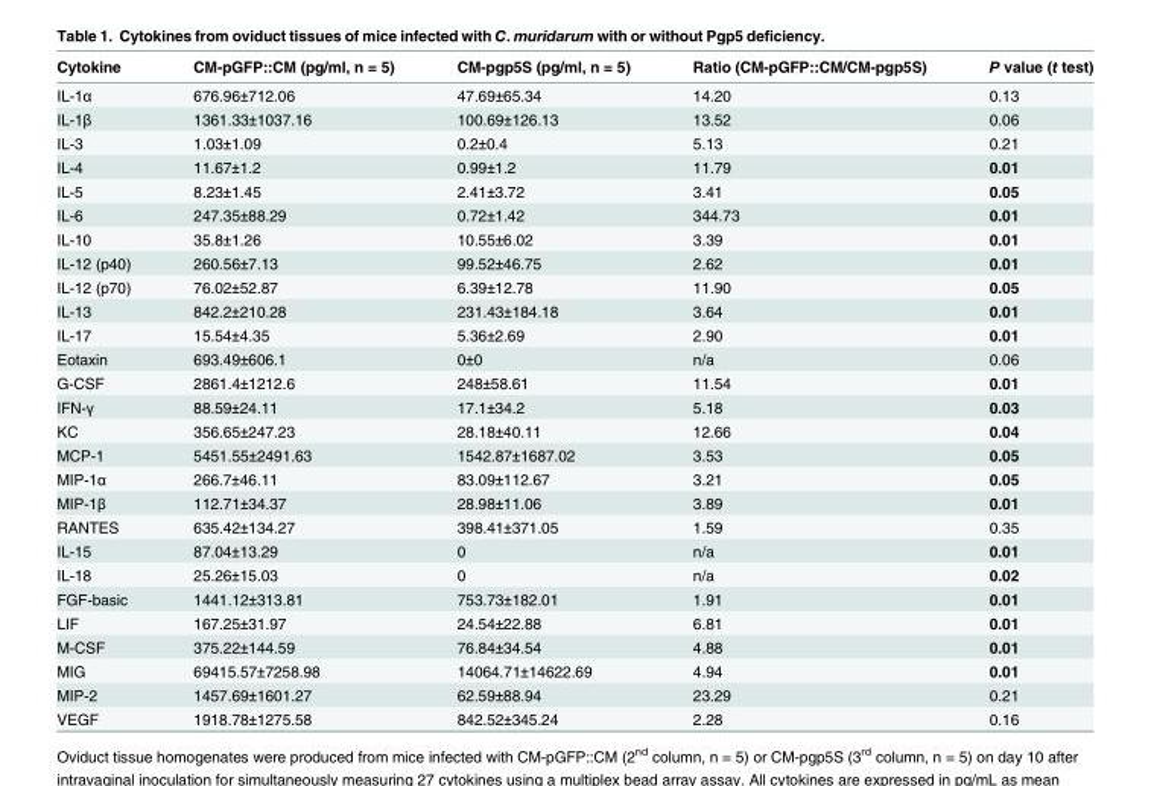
<table><thead><tr><td>Cytokine</td><td>CM-pGFP::CM (pg/ml, n = 5)</td><td>CM-pgp5S (pg/ml, n = 5)</td><td>Ratio (CM-pGFP::CM/CM-pgp5S)</td><td>P value (t test)</td></tr></thead><tbody><tr><td>IL-1α</td><td>676.96±712.06</td><td>47.69±65.34</td><td>14.20</td><td>0.13</td></tr><tr><td>IL-1β</td><td>1361.33±1037.16</td><td>100.69±126.13</td><td>13.52</td><td>0.06</td></tr><tr><td>IL-3</td><td>1.03±1.09</td><td>0.2±0.4</td><td>5.13</td><td>0.21</td></tr><tr><td>IL-4</td><td>11.67±1.2</td><td>0.99±1.2</td><td>11.79</td><td>0.01</td></tr><tr><td>IL-5</td><td>8.23±1.45</td><td>2.41±3.72</td><td>3.41</td><td>0.05</td></tr><tr><td>IL-6</td><td>247.35±88.29</td><td>0.72±1.42</td><td>344.73</td><td>0.01</td></tr><tr><td>IL-10</td><td>35.8±1.26</td><td>10.55±6.02</td><td>3.39</td><td>0.01</td></tr><tr><td>IL-12 (p40)</td><td>260.56±7.13</td><td>99.52±46.75</td><td>2.62</td><td>0.01</td></tr><tr><td>IL-12 (p70)</td><td>76.02±52.87</td><td>6.39±12.78</td><td>11.90</td><td>0.05</td></tr><tr><td>IL-13</td><td>842.2±210.28</td><td>231.43±184.18</td><td>3.64</td><td>0.01</td></tr><tr><td>IL-17</td><td>15.54±4.35</td><td>5.36±2.69</td><td>2.90</td><td>0.01</td></tr><tr><td>Eotaxin</td><td>693.49±606.1</td><td>0±0</td><td>n/a</td><td>0.06</td></tr><tr><td>G-CSF</td><td>2861.4±1212.6</td><td>248±58.61</td><td>11.54</td><td>0.01</td></tr><tr><td>IFN-γ</td><td>88.59±24.11</td><td>17.1±34.2</td><td>5.18</td><td>0.03</td></tr><tr><td>KC</td><td>356.65±247.23</td><td>28.18±40.11</td><td>12.66</td><td>0.04</td></tr><tr><td>MCP-1</td><td>5451.55±2491.63</td><td>1542.87±1687.02</td><td>3.53</td><td>0.05</td></tr><tr><td>MIP-1α</td><td>266.7±46.11</td><td>83.09±112.67</td><td>3.21</td><td>0.05</td></tr><tr><td>MIP-1β</td><td>112.71±34.37</td><td>28.98±11.06</td><td>3.89</td><td>0.01</td></tr><tr><td>RANTES</td><td>635.42±134.27</td><td>398.41±371.05</td><td>1.59</td><td>0.35</td></tr><tr><td>IL-15</td><td>87.04±13.29</td><td>0</td><td>n/a</td><td>0.01</td></tr><tr><td>IL-18</td><td>25.26±15.03</td><td>0</td><td>n/a</td><td>0.02</td></tr><tr><td>FGF-basic</td><td>1441.12±313.81</td><td>753.73±182.01</td><td>1.91</td><td>0.01</td></tr><tr><td>LIF</td><td>167.25±31.97</td><td>24.54±22.88</td><td>6.81</td><td>0.01</td></tr><tr><td>M-CSF</td><td>375.22±144.59</td><td>76.84±34.54</td><td>4.88</td><td>0.01</td></tr><tr><td>MIG</td><td>69415.57±7258.98</td><td>14064.71±14622.69</td><td>4.94</td><td>0.01</td></tr><tr><td>MIP-2</td><td>1457.69±1601.27</td><td>62.59±88.94</td><td>23.29</td><td>0.21</td></tr><tr><td>VEGF</td><td>1918.78±1275.58</td><td>842.52±345.24</td><td>2.28</td><td>0.16</td></tr></tbody></table>